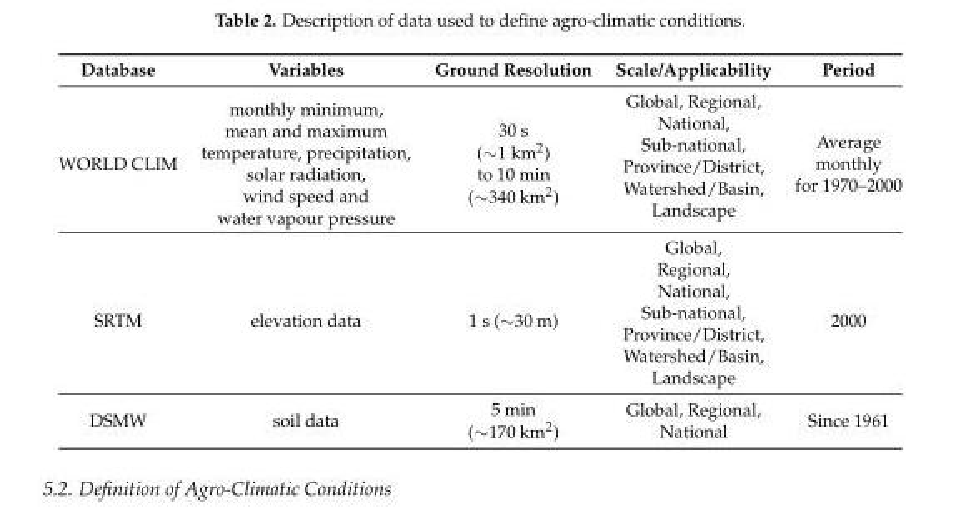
<table><thead><tr><td>Database</td><td>Variables</td><td>Ground Resolution</td><td>Scale/Applicability</td><td>Period</td></tr></thead><tbody><tr><td>WORLD CLIM</td><td>monthly minimum, mean and maximum temperature, precipitation, solar radiation, wind speed and water vapour pressure</td><td>30 s (∼1 km<sup>2</sup>) to 10 min (∼340 km<sup>2</sup>)</td><td>Global, Regional, National, Sub-national, Province/District, Watershed/Basin, Landscape</td><td>Average monthly for 1970–2000</td></tr><tr><td>SRTM</td><td>elevation data</td><td>1 s (∼30 m)</td><td>Global, Regional, National, Sub-national, Province/District, Watershed/Basin, Landscape</td><td>2000</td></tr><tr><td>DSMW</td><td>soil data</td><td>5 min (∼170 km<sup>2</sup>)</td><td>Global, Regional, National</td><td>Since 1961</td></tr></tbody></table>